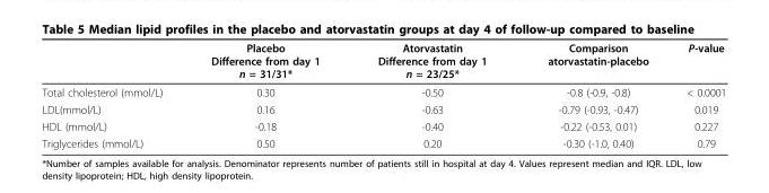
<table><thead><tr><td></td><td>Placebo Difference from day 1 n = 31/31*</td><td>Atorvastatin Difference from day 1 n = 23/25*</td><td>Comparison atorvastatin-placebo</td><td>P-value</td></tr></thead><tbody><tr><td>Total cholesterol (mmol/L)</td><td>0.30</td><td>-0.50</td><td>-0.8 (-0.9, -0.8)</td><td>&lt; 0.0001</td></tr><tr><td>LDL(mmol/L)</td><td>0.16</td><td>-0.63</td><td>-0.79 (-0.93, -0.47)</td><td>0.019</td></tr><tr><td>HDL (mmol/L)</td><td>-0.18</td><td>-0.40</td><td>-0.22 (-0.53, 0.01)</td><td>0.227</td></tr><tr><td>Triglycerides (mmol/L)</td><td>0.50</td><td>0.20</td><td>-0.30 (-1.0, 0.40)</td><td>0.79</td></tr></tbody></table>